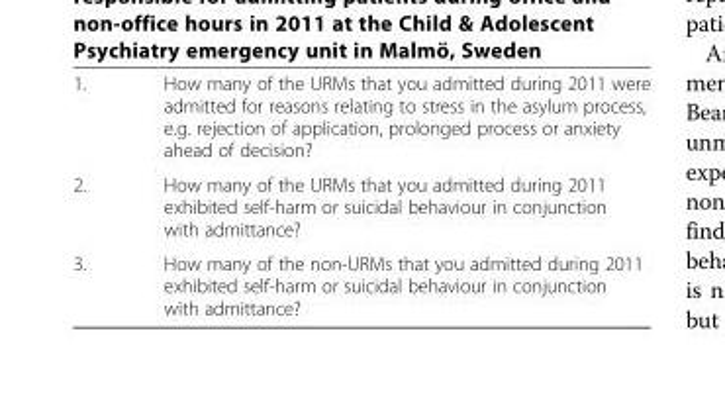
<table><tbody><tr><td>1.</td><td>How many of the URMs that you admitted during 2011 were admitted for reasons relating to stress in the asylum process, e.g. rejection of application, prolonged process or anxiety ahead of decision?</td></tr><tr><td>2.</td><td>How many of the URMs that you admitted during 2011 exhibited self-harm or suicidal behaviour in conjunction with admittance?</td></tr><tr><td>3.</td><td>How many of the non-URMs that you admitted during 2011 exhibited self-harm or suicidal behaviour in conjunction with admittance?</td></tr></tbody></table>